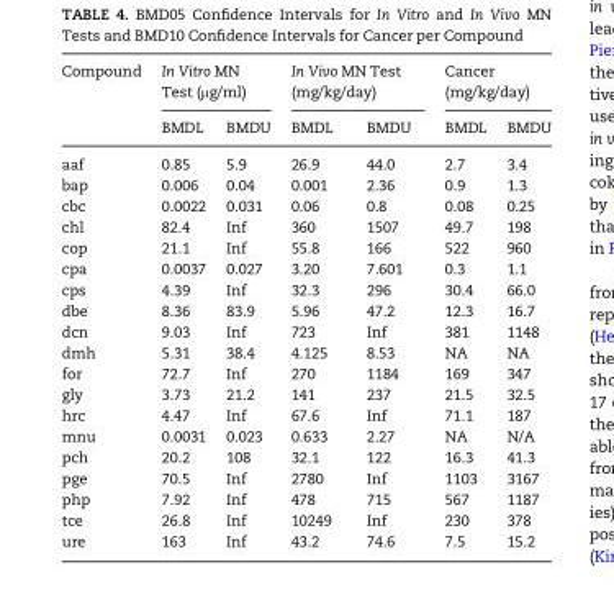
<table><thead><tr><td rowspan="2">Compound</td><td colspan="2">In Vitro MN Test (µg/ml)</td><td colspan="2">In Vivo MN Test (mg/kg/day)</td><td colspan="2">Cancer (mg/kg/day)</td></tr><tr><td>BMDL</td><td>BMDU</td><td>BMDL</td><td>BMDU</td><td>BMDL</td><td>BMDU</td></tr></thead><tbody><tr><td>aaf</td><td>0.85</td><td>5.9</td><td>26.9</td><td>44.0</td><td>2.7</td><td>3.4</td></tr><tr><td>bap</td><td>0.006</td><td>0.04</td><td>0.001</td><td>2.36</td><td>0.9</td><td>1.3</td></tr><tr><td>cbc</td><td>0.0022</td><td>0.031</td><td>0.06</td><td>0.8</td><td>0.08</td><td>0.25</td></tr><tr><td>chl</td><td>82.4</td><td>Inf</td><td>360</td><td>1507</td><td>49.7</td><td>198</td></tr><tr><td>cop</td><td>21.1</td><td>Inf</td><td>55.8</td><td>166</td><td>522</td><td>960</td></tr><tr><td>cpa</td><td>0.0037</td><td>0.027</td><td>3.20</td><td>7.601</td><td>0.3</td><td>1.1</td></tr><tr><td>cps</td><td>4.39</td><td>Inf</td><td>32.3</td><td>296</td><td>30.4</td><td>66.0</td></tr><tr><td>dbe</td><td>8.36</td><td>83.9</td><td>5.96</td><td>47.2</td><td>12.3</td><td>16.7</td></tr><tr><td>dcn</td><td>9.03</td><td>Inf</td><td>723</td><td>Inf</td><td>381</td><td>1148</td></tr><tr><td>dmh</td><td>5.31</td><td>38.4</td><td>4.125</td><td>8.53</td><td>NA</td><td>NA</td></tr><tr><td>for</td><td>72.7</td><td>Inf</td><td>270</td><td>1184</td><td>169</td><td>347</td></tr><tr><td>gly</td><td>3.73</td><td>21.2</td><td>141</td><td>237</td><td>21.5</td><td>32.5</td></tr><tr><td>hrc</td><td>4.47</td><td>Inf</td><td>67.6</td><td>Inf</td><td>71.1</td><td>187</td></tr><tr><td>mnu</td><td>0.0031</td><td>0.023</td><td>0.633</td><td>2.27</td><td>NA</td><td>N/A</td></tr><tr><td>pch</td><td>20.2</td><td>108</td><td>32.1</td><td>122</td><td>16.3</td><td>41.3</td></tr><tr><td>pge</td><td>70.5</td><td>Inf</td><td>2780</td><td>Inf</td><td>1103</td><td>3167</td></tr><tr><td>php</td><td>7.92</td><td>Inf</td><td>478</td><td>715</td><td>567</td><td>1187</td></tr><tr><td>tce</td><td>26.8</td><td>Inf</td><td>10249</td><td>Inf</td><td>230</td><td>378</td></tr><tr><td>ure</td><td>163</td><td>Inf</td><td>43.2</td><td>74.6</td><td>7.5</td><td>15.2</td></tr></tbody></table>